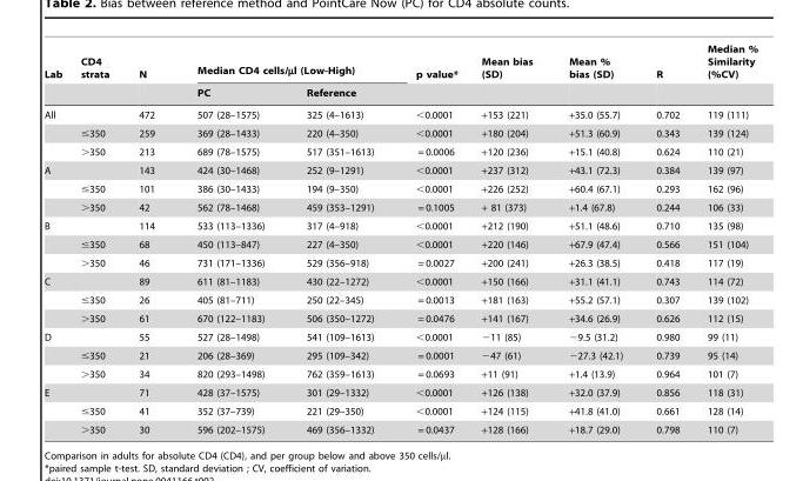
<table><thead><tr><td rowspan="2">Lab</td><td rowspan="2">CD4 strata</td><td rowspan="2">N</td><td colspan="2">Median CD4 cells/µl (Low-High)</td><td rowspan="2">p value*</td><td rowspan="2">Mean bias (SD)</td><td rowspan="2">Mean % bias (SD)</td><td rowspan="2">R</td><td rowspan="2">Median % Similarity (%CV)</td></tr><tr><td>PC</td><td>Reference</td></tr></thead><tbody><tr><td rowspan="3">All</td><td></td><td>472</td><td>507 (28–1575)</td><td>325 (4–1613)</td><td>&lt;0.0001</td><td>+153 (221)</td><td>+35.0 (55.7)</td><td>0.702</td><td>119 (111)</td></tr><tr><td>≤350</td><td>259</td><td>369 (28–1433)</td><td>220 (4–350)</td><td>&lt;0.0001</td><td>+180 (204)</td><td>+51.3 (60.9)</td><td>0.343</td><td>139 (124)</td></tr><tr><td>&gt;350</td><td>213</td><td>689 (78–1575)</td><td>517 (351–1613)</td><td>= 0.0006</td><td>+120 (236)</td><td>+15.1 (40.8)</td><td>0.624</td><td>110 (21)</td></tr><tr><td rowspan="3">A</td><td></td><td>143</td><td>424 (30–1468)</td><td>252 (9–1291)</td><td>&lt;0.0001</td><td>+237 (312)</td><td>+43.1 (72.3)</td><td>0.384</td><td>139 (97)</td></tr><tr><td>≤350</td><td>101</td><td>386 (30–1433)</td><td>194 (9–350)</td><td>&lt;0.0001</td><td>+226 (252)</td><td>+60.4 (67.1)</td><td>0.293</td><td>162 (96)</td></tr><tr><td>&gt;350</td><td>42</td><td>562 (78–1468)</td><td>459 (353–1291)</td><td>= 0.1005</td><td>+ 81 (373)</td><td>+1.4 (67.8)</td><td>0.244</td><td>106 (33)</td></tr><tr><td rowspan="3">B</td><td></td><td>114</td><td>533 (113–1336)</td><td>317 (4–918)</td><td>&lt;0.0001</td><td>+212 (190)</td><td>+51.1 (48.6)</td><td>0.710</td><td>135 (98)</td></tr><tr><td>≤350</td><td>68</td><td>450 (113–847)</td><td>227 (4–350)</td><td>&lt;0.0001</td><td>+220 (146)</td><td>+67.9 (47.4)</td><td>0.566</td><td>151 (104)</td></tr><tr><td>&gt;350</td><td>46</td><td>731 (171–1336)</td><td>529 (356–918)</td><td>= 0.0027</td><td>+200 (241)</td><td>+26.3 (38.5)</td><td>0.418</td><td>117 (19)</td></tr><tr><td rowspan="3">C</td><td></td><td>89</td><td>611 (81–1183)</td><td>430 (22–1272)</td><td>&lt;0.0001</td><td>+150 (166)</td><td>+31.1 (41.1)</td><td>0.743</td><td>114 (72)</td></tr><tr><td>≤350</td><td>26</td><td>405 (81–711)</td><td>250 (22–345)</td><td>= 0.0013</td><td>+181 (163)</td><td>+55.2 (57.1)</td><td>0.307</td><td>139 (102)</td></tr><tr><td>&gt;350</td><td>61</td><td>670 (122–1183)</td><td>506 (350–1272)</td><td>= 0.0476</td><td>+141 (167)</td><td>+34.6 (26.9)</td><td>0.626</td><td>112 (15)</td></tr><tr><td rowspan="3">D</td><td></td><td>55</td><td>527 (28–1498)</td><td>541 (109–1613)</td><td>&lt;0.0001</td><td>−11 (85)</td><td>−9.5 (31.2)</td><td>0.980</td><td>99 (11)</td></tr><tr><td>≤350</td><td>21</td><td>206 (28–369)</td><td>295 (109–342)</td><td>= 0.0001</td><td>−47 (61)</td><td>−27.3 (42.1)</td><td>0.739</td><td>95 (14)</td></tr><tr><td>&gt;350</td><td>34</td><td>820 (293–1498)</td><td>762 (359–1613)</td><td>= 0.0693</td><td>+11 (91)</td><td>+1.4 (13.9)</td><td>0.964</td><td>101 (7)</td></tr><tr><td rowspan="3">E</td><td></td><td>71</td><td>428 (37–1575)</td><td>301 (29–1332)</td><td>&lt;0.0001</td><td>+126 (138)</td><td>+32.0 (37.9)</td><td>0.856</td><td>118 (31)</td></tr><tr><td>≤350</td><td>41</td><td>352 (37–739)</td><td>221 (29–350)</td><td>&lt;0.0001</td><td>+124 (115)</td><td>+41.8 (41.0)</td><td>0.661</td><td>128 (14)</td></tr><tr><td>&gt;350</td><td>30</td><td>596 (202–1575)</td><td>469 (356–1332)</td><td>= 0.0437</td><td>+128 (166)</td><td>+18.7 (29.0)</td><td>0.798</td><td>110 (7)</td></tr></tbody></table>